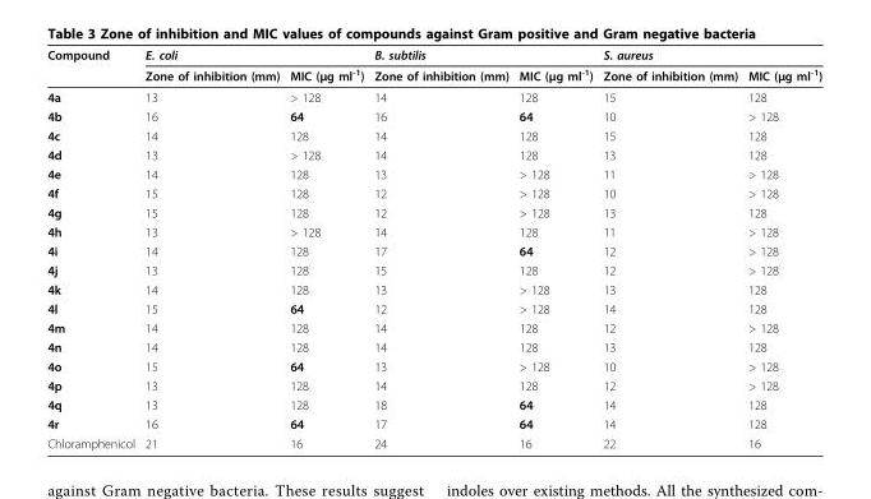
<table><thead><tr><td rowspan="2">Compound</td><td colspan="2">E. coli</td><td colspan="2">B. subtilis</td><td colspan="2">S. aureus</td></tr><tr><td>Zone of inhibition (mm)</td><td>MIC (μg ml<sup>-1</sup>)</td><td>Zone of inhibition (mm)</td><td>MIC (μg ml<sup>-1</sup>)</td><td>Zone of inhibition (mm)</td><td>MIC (μg ml<sup>-1</sup>)</td></tr></thead><tbody><tr><td>4a</td><td>13</td><td>&gt; 128</td><td>14</td><td>128</td><td>15</td><td>128</td></tr><tr><td>4b</td><td>16</td><td>64</td><td>16</td><td>64</td><td>10</td><td>&gt; 128</td></tr><tr><td>4c</td><td>14</td><td>128</td><td>14</td><td>128</td><td>15</td><td>128</td></tr><tr><td>4d</td><td>13</td><td>&gt; 128</td><td>14</td><td>128</td><td>13</td><td>128</td></tr><tr><td>4e</td><td>14</td><td>128</td><td>13</td><td>&gt; 128</td><td>11</td><td>&gt; 128</td></tr><tr><td>4f</td><td>15</td><td>128</td><td>12</td><td>&gt; 128</td><td>10</td><td>&gt; 128</td></tr><tr><td>4g</td><td>15</td><td>128</td><td>12</td><td>&gt; 128</td><td>13</td><td>128</td></tr><tr><td>4h</td><td>13</td><td>&gt; 128</td><td>14</td><td>128</td><td>11</td><td>&gt; 128</td></tr><tr><td>4i</td><td>14</td><td>128</td><td>17</td><td>64</td><td>12</td><td>&gt; 128</td></tr><tr><td>4j</td><td>13</td><td>128</td><td>15</td><td>128</td><td>12</td><td>&gt; 128</td></tr><tr><td>4k</td><td>14</td><td>128</td><td>13</td><td>&gt; 128</td><td>13</td><td>128</td></tr><tr><td>4l</td><td>15</td><td>64</td><td>12</td><td>&gt; 128</td><td>14</td><td>128</td></tr><tr><td>4m</td><td>14</td><td>128</td><td>14</td><td>128</td><td>12</td><td>&gt; 128</td></tr><tr><td>4n</td><td>14</td><td>128</td><td>14</td><td>128</td><td>13</td><td>128</td></tr><tr><td>4o</td><td>15</td><td>64</td><td>13</td><td>&gt; 128</td><td>10</td><td>&gt; 128</td></tr><tr><td>4p</td><td>13</td><td>128</td><td>14</td><td>128</td><td>12</td><td>&gt; 128</td></tr><tr><td>4q</td><td>13</td><td>128</td><td>18</td><td>64</td><td>14</td><td>128</td></tr><tr><td>4r</td><td>16</td><td>64</td><td>17</td><td>64</td><td>14</td><td>128</td></tr><tr><td>Chloramphenicol</td><td>21</td><td>16</td><td>24</td><td>16</td><td>22</td><td>16</td></tr></tbody></table>